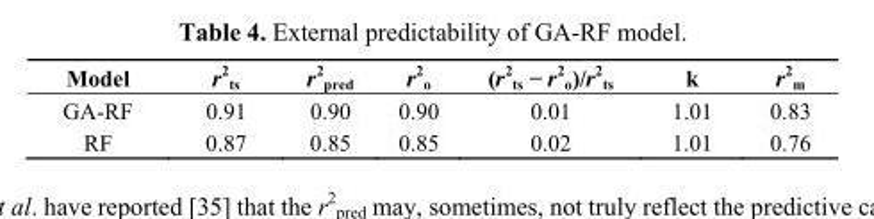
<table><thead><tr><td>Model</td><td>r<sup>2</sup> <sub>ts</sub></td><td>r<sup>2</sup> <sub>pred</sub></td><td>r<sup>2</sup> <sub>o</sub></td><td>(r<sup>2</sup> <sub>ts</sub> − r<sup>2</sup> <sub>o</sub>)/r<sup>2</sup> <sub>ts</sub></td><td>k</td><td>r<sup>2</sup> <sub>m</sub></td></tr></thead><tbody><tr><td>GA-RF</td><td>0.91</td><td>0.90</td><td>0.90</td><td>0.01</td><td>1.01</td><td>0.83</td></tr><tr><td>RF</td><td>0.87</td><td>0.85</td><td>0.85</td><td>0.02</td><td>1.01</td><td>0.76</td></tr></tbody></table>